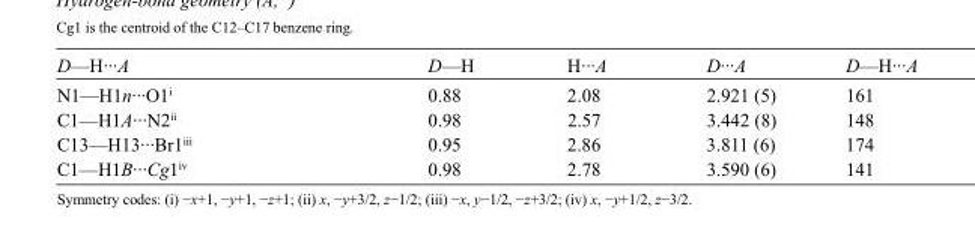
<table><tbody><tr><td>D—H···A</td><td>D—H</td><td>H···A</td><td>D···A</td><td>D—H···A</td></tr><tr><td>N1—H1n···O1<sup>i</sup></td><td>0.88</td><td>2.08</td><td>2.921 (5)</td><td>161</td></tr><tr><td>C1—H1A···N2<sup>ii</sup></td><td>0.98</td><td>2.57</td><td>3.442 (8)</td><td>148</td></tr><tr><td>C13—H13···Br1<sup>iii</sup></td><td>0.95</td><td>2.86</td><td>3.811 (6)</td><td>174</td></tr><tr><td>C1—H1B···Cg1<sup>iv</sup></td><td>0.98</td><td>2.78</td><td>3.590 (6)</td><td>141</td></tr></tbody></table>